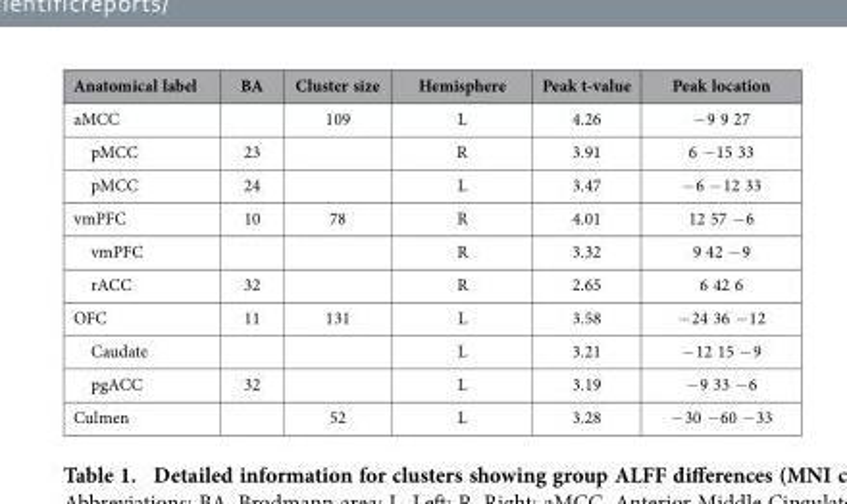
<table><thead><tr><td>Anatomical label</td><td>BA</td><td>Cluster size</td><td>Hemisphere</td><td>Peak t-value</td><td>Peak location</td></tr></thead><tbody><tr><td>aMCC</td><td></td><td>109</td><td>L</td><td>4.26</td><td>− 9 9 27</td></tr><tr><td>pMCC</td><td>23</td><td></td><td>R</td><td>3.91</td><td>6 − 15 33</td></tr><tr><td>pMCC</td><td>24</td><td></td><td>L</td><td>3.47</td><td>− 6 − 12 33</td></tr><tr><td>vmPFC</td><td>10</td><td>78</td><td>R</td><td>4.01</td><td>12 57 − 6</td></tr><tr><td>vmPFC</td><td></td><td></td><td>R</td><td>3.32</td><td>9 42 − 9</td></tr><tr><td>rACC</td><td>32</td><td></td><td>R</td><td>2.65</td><td>6 42 6</td></tr><tr><td>OFC</td><td>11</td><td>131</td><td>L</td><td>3.58</td><td>− 24 36 − 12</td></tr><tr><td>Caudate</td><td></td><td></td><td>L</td><td>3.21</td><td>− 12 15 − 9</td></tr><tr><td>pgACC</td><td>32</td><td></td><td>L</td><td>3.19</td><td>− 9 33 − 6</td></tr><tr><td>Culmen</td><td></td><td>52</td><td>L</td><td>3.28</td><td>− 30 − 60 − 33</td></tr></tbody></table>